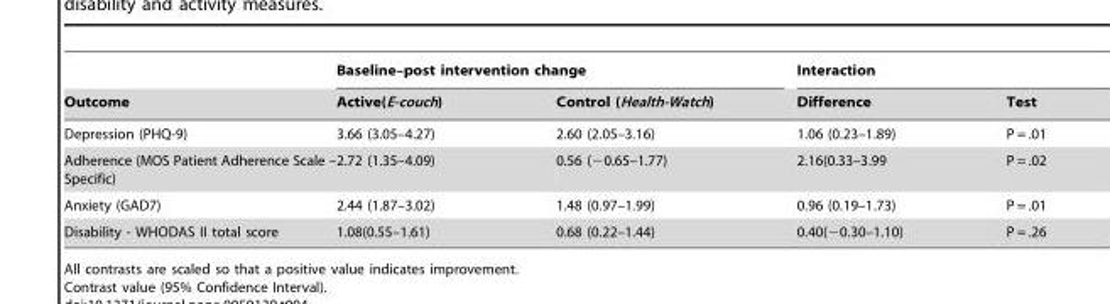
<table><thead><tr><td rowspan="2">Outcome</td><td colspan="2">Baseline–post intervention change</td><td colspan="2">Interaction</td></tr><tr><td>Active(E-couch)</td><td>Control (Health-Watch)</td><td>Difference</td><td>Test</td></tr></thead><tbody><tr><td>Depression (PHQ-9)</td><td>3.66 (3.05–4.27)</td><td>2.60 (2.05–3.16)</td><td>1.06 (0.23–1.89)</td><td>P = .01</td></tr><tr><td>Adherence (MOS Patient Adherence Scale – Specific)</td><td>2.72 (1.35–4.09)</td><td>0.56 (−0.65–1.77)</td><td>2.16(0.33–3.99</td><td>P = .02</td></tr><tr><td>Anxiety (GAD7)</td><td>2.44 (1.87–3.02)</td><td>1.48 (0.97–1.99)</td><td>0.96 (0.19–1.73)</td><td>P = .01</td></tr><tr><td>Disability - WHODAS II total score</td><td>1.08(0.55–1.61)</td><td>0.68 (0.22–1.44)</td><td>0.40(−0.30–1.10)</td><td>P = .26</td></tr></tbody></table>